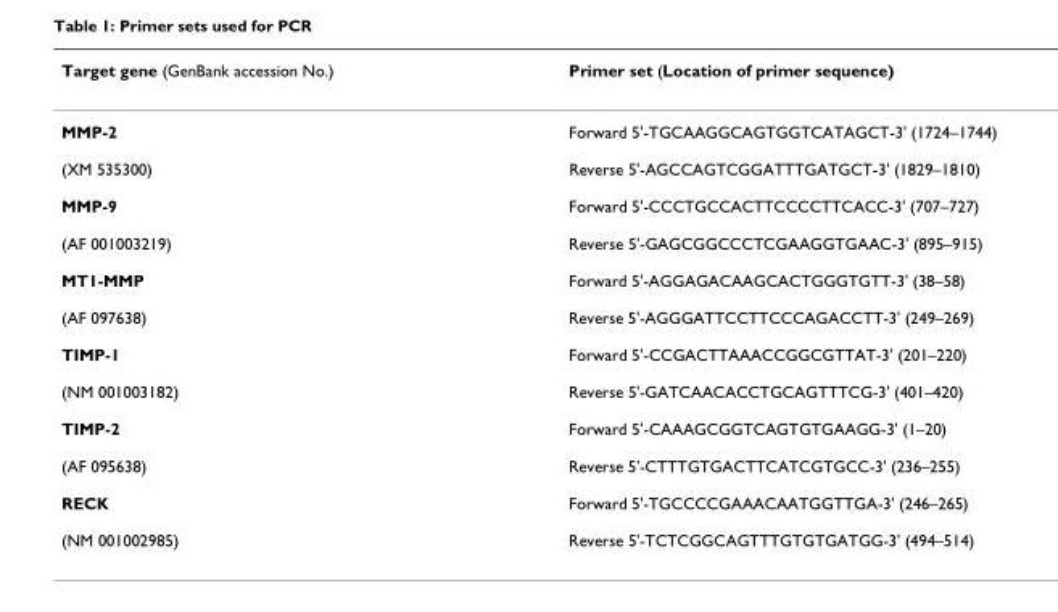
<table><thead><tr><td>Target gene (GenBank accession No.)</td><td>Primer set (Location of primer sequence)</td></tr></thead><tbody><tr><td>MMP-2</td><td>Forward 5&#x27;-TGCAAGGCAGTGGTCATAGCT-3&#x27; (1724–1744)</td></tr><tr><td>(XM 535300)</td><td>Reverse 5&#x27;-AGCCAGTCGGATTTGATGCT-3&#x27; (1829–1810)</td></tr><tr><td>MMP-9</td><td>Forward 5&#x27;-CCCTGCCACTTCCCCTTCACC-3&#x27; (707–727)</td></tr><tr><td>(AF 001003219)</td><td>Reverse 5&#x27;-GAGCGGCCCTCGAAGGTGAAC-3&#x27; (895–915)</td></tr><tr><td>MT1-MMP</td><td>Forward 5&#x27;-AGGAGACAAGCACTGGGTGTT-3&#x27; (38–58)</td></tr><tr><td>(AF 097638)</td><td>Reverse 5&#x27;-AGGGATTCCTTCCCAGACCTT-3&#x27; (249–269)</td></tr><tr><td>TIMP-1</td><td>Forward 5&#x27;-CCGACTTAAACCGGCGTTAT-3&#x27; (201–220)</td></tr><tr><td>(NM 001003182)</td><td>Reverse 5&#x27;-GATCAACACCTGCAGTTTCG-3&#x27; (401–420)</td></tr><tr><td>TIMP-2</td><td>Forward 5&#x27;-CAAAGCGGTCAGTGTGAAGG-3&#x27; (1–20)</td></tr><tr><td>(AF 095638)</td><td>Reverse 5&#x27;-CTTTGTGACTTCATCGTGCC-3&#x27; (236–255)</td></tr><tr><td>RECK</td><td>Forward 5&#x27;-TGCCCCGAAACAATGGTTGA-3&#x27; (246–265)</td></tr><tr><td>(NM 001002985)</td><td>Reverse 5&#x27;-TCTCGGCAGTTTGTGTGATGG-3&#x27; (494–514)</td></tr></tbody></table>